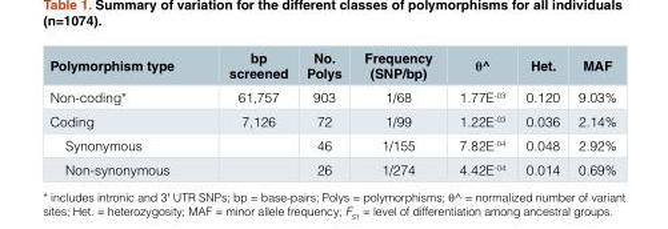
<table><thead><tr><td>Polymorphism type</td><td>bp screened</td><td>No. Polys</td><td>Frequency (SNP/bp)</td><td>θ^</td><td>Het.</td><td>MAF</td></tr></thead><tbody><tr><td>Non-coding*</td><td>61,757</td><td>903</td><td>1/68</td><td>1.77E<sup>-03</sup></td><td>0.120</td><td>9.03%</td></tr><tr><td>Coding</td><td>7,126</td><td>72</td><td>1/99</td><td>1.22E<sup>-03</sup></td><td>0.036</td><td>2.14%</td></tr><tr><td>Synonymous</td><td></td><td>46</td><td>1/155</td><td>7.82E<sup>-04</sup></td><td>0.048</td><td>2.92%</td></tr><tr><td>Non-synonymous</td><td></td><td>26</td><td>1/274</td><td>4.42E<sup>-04</sup></td><td>0.014</td><td>0.69%</td></tr></tbody></table>